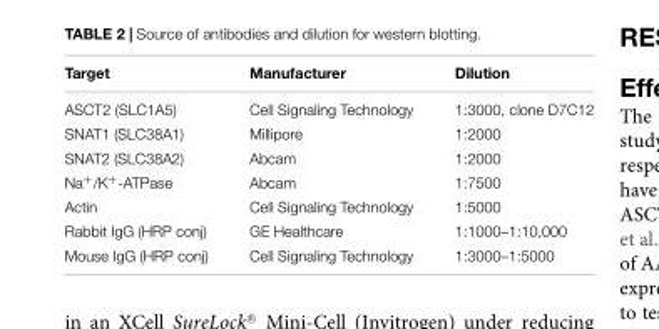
<table><thead><tr><td>Target</td><td>Manufacturer</td><td>Dilution</td></tr></thead><tbody><tr><td>ASCT2 (SLC1A5)</td><td>Cell Signaling Technology</td><td>1:3000, clone D7C12</td></tr><tr><td>SNAT1 (SLC38A1)</td><td>Millipore</td><td>1:2000</td></tr><tr><td>SNAT2 (SLC38A2)</td><td>Abcam</td><td>1:2000</td></tr><tr><td>Na<sup>+</sup>/K<sup>+</sup>-ATPase</td><td>Abcam</td><td>1:7500</td></tr><tr><td>Actin</td><td>Cell Signaling Technology</td><td>1:5000</td></tr><tr><td>Rabbit IgG (HRP conj)</td><td>GE Healthcare</td><td>1:1000–1:10,000</td></tr><tr><td>Mouse IgG (HRP conj)</td><td>Cell Signaling Technology</td><td>1:3000–1:5000</td></tr></tbody></table>